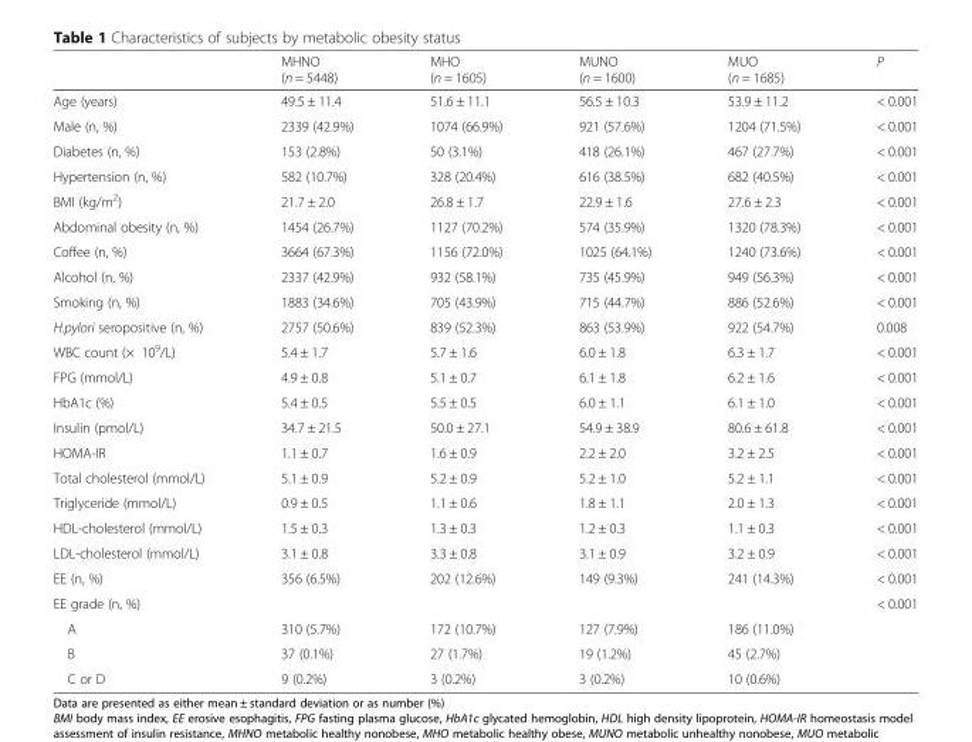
<table><thead><tr><td></td><td>MHNO (n = 5448)</td><td>MHO (n = 1605)</td><td>MUNO (n = 1600)</td><td>MUO (n = 1685)</td><td>P</td></tr></thead><tbody><tr><td>Age (years)</td><td>49.5 ± 11.4</td><td>51.6 ± 11.1</td><td>56.5 ± 10.3</td><td>53.9 ± 11.2</td><td>&lt; 0.001</td></tr><tr><td>Male (n, %)</td><td>2339 (42.9%)</td><td>1074 (66.9%)</td><td>921 (57.6%)</td><td>1204 (71.5%)</td><td>&lt; 0.001</td></tr><tr><td>Diabetes (n, %)</td><td>153 (2.8%)</td><td>50 (3.1%)</td><td>418 (26.1%)</td><td>467 (27.7%)</td><td>&lt; 0.001</td></tr><tr><td>Hypertension (n, %)</td><td>582 (10.7%)</td><td>328 (20.4%)</td><td>616 (38.5%)</td><td>682 (40.5%)</td><td>&lt; 0.001</td></tr><tr><td>BMI (kg/m<sup>2</sup>)</td><td>21.7 ± 2.0</td><td>26.8 ± 1.7</td><td>22.9 ± 1.6</td><td>27.6 ± 2.3</td><td>&lt; 0.001</td></tr><tr><td>Abdominal obesity (n, %)</td><td>1454 (26.7%)</td><td>1127 (70.2%)</td><td>574 (35.9%)</td><td>1320 (78.3%)</td><td>&lt; 0.001</td></tr><tr><td>Coffee (n, %)</td><td>3664 (67.3%)</td><td>1156 (72.0%)</td><td>1025 (64.1%)</td><td>1240 (73.6%)</td><td>&lt; 0.001</td></tr><tr><td>Alcohol (n, %)</td><td>2337 (42.9%)</td><td>932 (58.1%)</td><td>735 (45.9%)</td><td>949 (56.3%)</td><td>&lt; 0.001</td></tr><tr><td>Smoking (n, %)</td><td>1883 (34.6%)</td><td>705 (43.9%)</td><td>715 (44.7%)</td><td>886 (52.6%)</td><td>&lt; 0.001</td></tr><tr><td>H.pylori seropositive (n, %)</td><td>2757 (50.6%)</td><td>839 (52.3%)</td><td>863 (53.9%)</td><td>922 (54.7%)</td><td>0.008</td></tr><tr><td>WBC count (× 10<sup>9</sup>/L)</td><td>5.4 ± 1.7</td><td>5.7 ± 1.6</td><td>6.0 ± 1.8</td><td>6.3 ± 1.7</td><td>&lt; 0.001</td></tr><tr><td>FPG (mmol/L)</td><td>4.9 ± 0.8</td><td>5.1 ± 0.7</td><td>6.1 ± 1.8</td><td>6.2 ± 1.6</td><td>&lt; 0.001</td></tr><tr><td>HbA1c (%)</td><td>5.4 ± 0.5</td><td>5.5 ± 0.5</td><td>6.0 ± 1.1</td><td>6.1 ± 1.0</td><td>&lt; 0.001</td></tr><tr><td>Insulin (pmol/L)</td><td>34.7 ± 21.5</td><td>50.0 ± 27.1</td><td>54.9 ± 38.9</td><td>80.6 ± 61.8</td><td>&lt; 0.001</td></tr><tr><td>HOMA-IR</td><td>1.1 ± 0.7</td><td>1.6 ± 0.9</td><td>2.2 ± 2.0</td><td>3.2 ± 2.5</td><td>&lt; 0.001</td></tr><tr><td>Total cholesterol (mmol/L)</td><td>5.1 ± 0.9</td><td>5.2 ± 0.9</td><td>5.2 ± 1.0</td><td>5.2 ± 1.1</td><td>&lt; 0.001</td></tr><tr><td>Triglyceride (mmol/L)</td><td>0.9 ± 0.5</td><td>1.1 ± 0.6</td><td>1.8 ± 1.1</td><td>2.0 ± 1.3</td><td>&lt; 0.001</td></tr><tr><td>HDL-cholesterol (mmol/L)</td><td>1.5 ± 0.3</td><td>1.3 ± 0.3</td><td>1.2 ± 0.3</td><td>1.1 ± 0.3</td><td>&lt; 0.001</td></tr><tr><td>LDL-cholesterol (mmol/L)</td><td>3.1 ± 0.8</td><td>3.3 ± 0.8</td><td>3.1 ± 0.9</td><td>3.2 ± 0.9</td><td>&lt; 0.001</td></tr><tr><td>EE (n, %)</td><td>356 (6.5%)</td><td>202 (12.6%)</td><td>149 (9.3%)</td><td>241 (14.3%)</td><td>&lt; 0.001</td></tr><tr><td>EE grade (n, %)</td><td></td><td></td><td></td><td></td><td>&lt; 0.001</td></tr><tr><td>A</td><td>310 (5.7%)</td><td>172 (10.7%)</td><td>127 (7.9%)</td><td>186 (11.0%)</td><td rowspan="3"></td></tr><tr><td>B</td><td>37 (0.1%)</td><td>27 (1.7%)</td><td>19 (1.2%)</td><td>45 (2.7%)</td></tr><tr><td>C or D</td><td>9 (0.2%)</td><td>3 (0.2%)</td><td>3 (0.2%)</td><td>10 (0.6%)</td></tr></tbody></table>